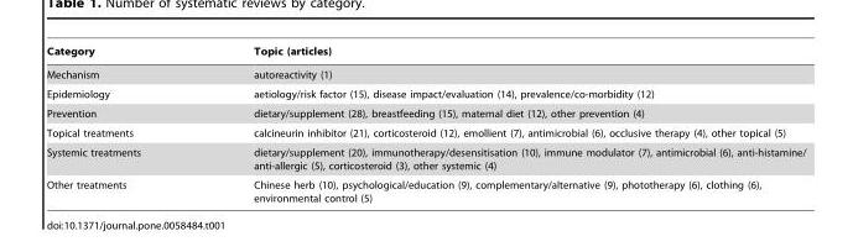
<table><thead><tr><td>Category</td><td>Topic (articles)</td></tr></thead><tbody><tr><td>Mechanism</td><td>autoreactivity (1)</td></tr><tr><td>Epidemiology</td><td>aetiology/risk factor (15), disease impact/evaluation (14), prevalence/co-morbidity (12)</td></tr><tr><td>Prevention</td><td>dietary/supplement (28), breastfeeding (15), maternal diet (12), other prevention (4)</td></tr><tr><td>Topical treatments</td><td>calcineurin inhibitor (21), corticosteroid (12), emollient (7), antimicrobial (6), occlusive therapy (4), other topical (5)</td></tr><tr><td>Systemic treatments</td><td>dietary/supplement (20), immunotherapy/desensitisation (10), immune modulator (7), antimicrobial (6), anti-histamine/ anti-allergic (5), corticosteroid (3), other systemic (4)</td></tr><tr><td>Other treatments</td><td>Chinese herb (10), psychological/education (9), complementary/alternative (9), phototherapy (6), clothing (6), environmental control (5)</td></tr></tbody></table>